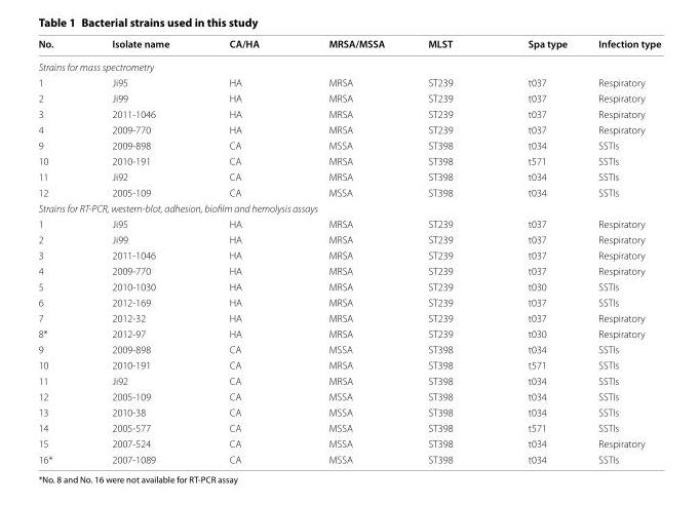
<table><thead><tr><td>No.</td><td>Isolate name</td><td>CA/HA</td><td>MRSA/MSSA</td><td>MLST</td><td>Spa type</td><td>Infection type</td></tr></thead><tbody><tr><td colspan="7">Strains for mass spectrometry</td></tr><tr><td>1</td><td>Ji95</td><td>HA</td><td>MRSA</td><td>ST239</td><td>t037</td><td>Respiratory</td></tr><tr><td>2</td><td>Ji99</td><td>HA</td><td>MRSA</td><td>ST239</td><td>t037</td><td>Respiratory</td></tr><tr><td>3</td><td>2011-1046</td><td>HA</td><td>MRSA</td><td>ST239</td><td>t037</td><td>Respiratory</td></tr><tr><td>4</td><td>2009-770</td><td>HA</td><td>MRSA</td><td>ST239</td><td>t037</td><td>Respiratory</td></tr><tr><td>9</td><td>2009-898</td><td>CA</td><td>MSSA</td><td>ST398</td><td>t034</td><td>SSTIs</td></tr><tr><td>10</td><td>2010-191</td><td>CA</td><td>MRSA</td><td>ST398</td><td>t571</td><td>SSTIs</td></tr><tr><td>11</td><td>Ji92</td><td>CA</td><td>MRSA</td><td>ST398</td><td>t034</td><td>SSTIs</td></tr><tr><td>12</td><td>2005-109</td><td>CA</td><td>MSSA</td><td>ST398</td><td>t034</td><td>SSTIs</td></tr><tr><td colspan="7">Strains for RT-PCR, western-blot, adhesion, biofilm and hemolysis assays</td></tr><tr><td>1</td><td>Ji95</td><td>HA</td><td>MRSA</td><td>ST239</td><td>t037</td><td>Respiratory</td></tr><tr><td>2</td><td>Ji99</td><td>HA</td><td>MRSA</td><td>ST239</td><td>t037</td><td>Respiratory</td></tr><tr><td>3</td><td>2011-1046</td><td>HA</td><td>MRSA</td><td>ST239</td><td>t037</td><td>Respiratory</td></tr><tr><td>4</td><td>2009-770</td><td>HA</td><td>MRSA</td><td>ST239</td><td>t037</td><td>Respiratory</td></tr><tr><td>5</td><td>2010-1030</td><td>HA</td><td>MRSA</td><td>ST239</td><td>t030</td><td>SSTIs</td></tr><tr><td>6</td><td>2012-169</td><td>HA</td><td>MRSA</td><td>ST239</td><td>t037</td><td>SSTIs</td></tr><tr><td>7</td><td>2012-32</td><td>HA</td><td>MRSA</td><td>ST239</td><td>t037</td><td>Respiratory</td></tr><tr><td>8*</td><td>2012-97</td><td>HA</td><td>MRSA</td><td>ST239</td><td>t030</td><td>Respiratory</td></tr><tr><td>9</td><td>2009-898</td><td>CA</td><td>MSSA</td><td>ST398</td><td>t034</td><td>SSTIs</td></tr><tr><td>10</td><td>2010-191</td><td>CA</td><td>MRSA</td><td>ST398</td><td>t571</td><td>SSTIs</td></tr><tr><td>11</td><td>Ji92</td><td>CA</td><td>MRSA</td><td>ST398</td><td>t034</td><td>SSTIs</td></tr><tr><td>12</td><td>2005-109</td><td>CA</td><td>MSSA</td><td>ST398</td><td>t034</td><td>SSTIs</td></tr><tr><td>13</td><td>2010-38</td><td>CA</td><td>MSSA</td><td>ST398</td><td>t034</td><td>SSTIs</td></tr><tr><td>14</td><td>2005-577</td><td>CA</td><td>MSSA</td><td>ST398</td><td>t571</td><td>SSTIs</td></tr><tr><td>15</td><td>2007-524</td><td>CA</td><td>MSSA</td><td>ST398</td><td>t034</td><td>Respiratory</td></tr><tr><td>16*</td><td>2007-1089</td><td>CA</td><td>MSSA</td><td>ST398</td><td>t034</td><td>SSTIs</td></tr></tbody></table>